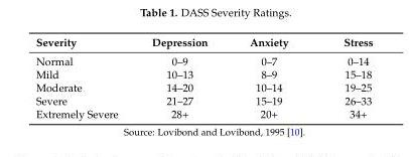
<table><thead><tr><td>Severity</td><td>Depression</td><td>Anxiety</td><td>Stress</td></tr></thead><tbody><tr><td>Normal</td><td>0–9</td><td>0–7</td><td>0–14</td></tr><tr><td>Mild</td><td>10–13</td><td>8–9</td><td>15–18</td></tr><tr><td>Moderate</td><td>14–20</td><td>10–14</td><td>19–25</td></tr><tr><td>Severe</td><td>21–27</td><td>15–19</td><td>26–33</td></tr><tr><td>Extremely Severe</td><td>28+</td><td>20+</td><td>34+</td></tr></tbody></table>